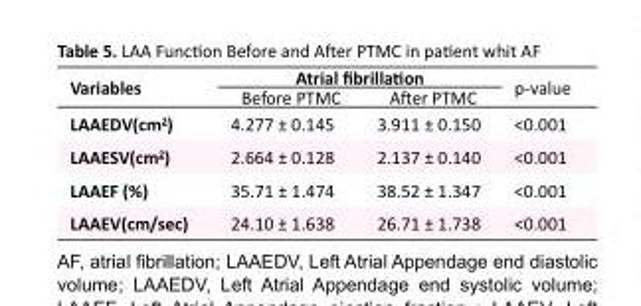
<table><tbody><tr><td rowspan="2">Variables</td><td colspan="2">Atrial fibrillation</td><td rowspan="2">p-value</td></tr><tr><td>Before PTMC</td><td>After PTMC</td></tr><tr><td>LAAEDV(cm<sup>2</sup>)</td><td>4.277 ± 0.145</td><td>3.911 ± 0.150</td><td>&lt;0.001</td></tr><tr><td>LAAESV(cm<sup>2</sup>)</td><td>2.664 ± 0.128</td><td>2.137 ± 0.140</td><td>&lt;0.001</td></tr><tr><td>LAAEF (%)</td><td>35.71 ± 1.474</td><td>38.52 ± 1.347</td><td>&lt;0.001</td></tr><tr><td>LAAEV(cm/sec)</td><td>24.10 ± 1.638</td><td>26.71 ± 1.738</td><td>&lt;0.001</td></tr></tbody></table>